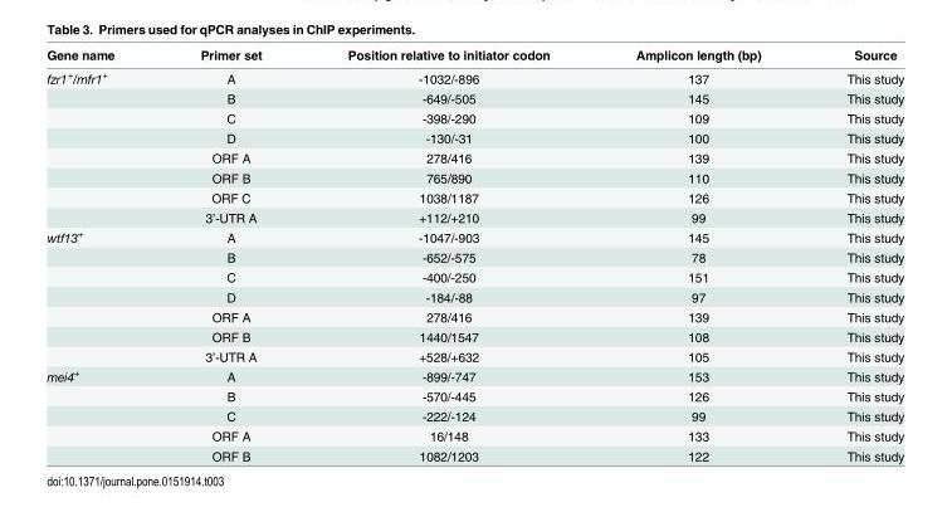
<table><thead><tr><td>Gene name</td><td>Primer set</td><td>Position relative to initiator codon</td><td>Amplicon length (bp)</td><td>Source</td></tr></thead><tbody><tr><td rowspan="8">fzr1<sup>+</sup>/mfr1<sup>+</sup></td><td>A</td><td>-1032/-896</td><td>137</td><td>This study</td></tr><tr><td>B</td><td>-649/-505</td><td>145</td><td>This study</td></tr><tr><td>C</td><td>-398/-290</td><td>109</td><td>This study</td></tr><tr><td>D</td><td>-130/-31</td><td>100</td><td>This study</td></tr><tr><td>ORF A</td><td>278/416</td><td>139</td><td>This study</td></tr><tr><td>ORF B</td><td>765/890</td><td>110</td><td>This study</td></tr><tr><td>ORF C</td><td>1038/1187</td><td>126</td><td>This study</td></tr><tr><td>3’-UTR A</td><td>+112/+210</td><td>99</td><td>This study</td></tr><tr><td rowspan="7">wtf13<sup>+</sup></td><td>A</td><td>-1047/-903</td><td>145</td><td>This study</td></tr><tr><td>B</td><td>-652/-575</td><td>78</td><td>This study</td></tr><tr><td>C</td><td>-400/-250</td><td>151</td><td>This study</td></tr><tr><td>D</td><td>-184/-88</td><td>97</td><td>This study</td></tr><tr><td>ORF A</td><td>278/416</td><td>139</td><td>This study</td></tr><tr><td>ORF B</td><td>1440/1547</td><td>108</td><td>This study</td></tr><tr><td>3’-UTR A</td><td>+528/+632</td><td>105</td><td>This study</td></tr><tr><td rowspan="5">mei4<sup>+</sup></td><td>A</td><td>-899/-747</td><td>153</td><td>This study</td></tr><tr><td>B</td><td>-570/-445</td><td>126</td><td>This study</td></tr><tr><td>C</td><td>-222/-124</td><td>99</td><td>This study</td></tr><tr><td>ORF A</td><td>16/148</td><td>133</td><td>This study</td></tr><tr><td>ORF B</td><td>1082/1203</td><td>122</td><td>This study</td></tr></tbody></table>